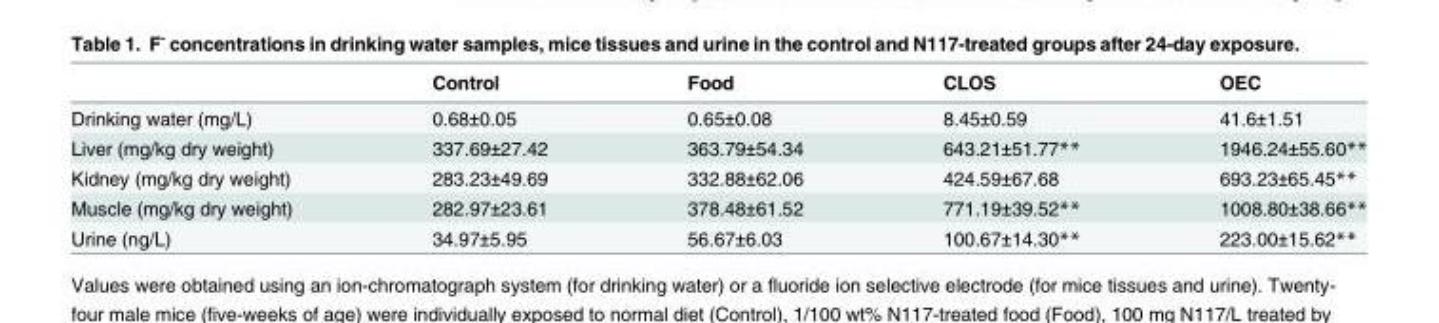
<table><thead><tr><td></td><td>Control</td><td>Food</td><td>CLOS</td><td>OEC</td></tr></thead><tbody><tr><td>Drinking water (mg/L)</td><td>0.68±0.05</td><td>0.65±0.08</td><td>8.45±0.59</td><td>41.6±1.51</td></tr><tr><td>Liver (mg/kg dry weight)</td><td>337.69±27.42</td><td>363.79±54.34</td><td>643.21±51.77**</td><td>1946.24±55.60**</td></tr><tr><td>Kidney (mg/kg dry weight)</td><td>283.23±49.69</td><td>332.88±62.06</td><td>424.59±67.68</td><td>693.23±65.45**</td></tr><tr><td>Muscle (mg/kg dry weight)</td><td>282.97±23.61</td><td>378.48±61.52</td><td>771.19±39.52**</td><td>1008.80±38.66**</td></tr><tr><td>Urine (ng/L)</td><td>34.97±5.95</td><td>56.67±6.03</td><td>100.67±14.30**</td><td>223.00±15.62**</td></tr></tbody></table>